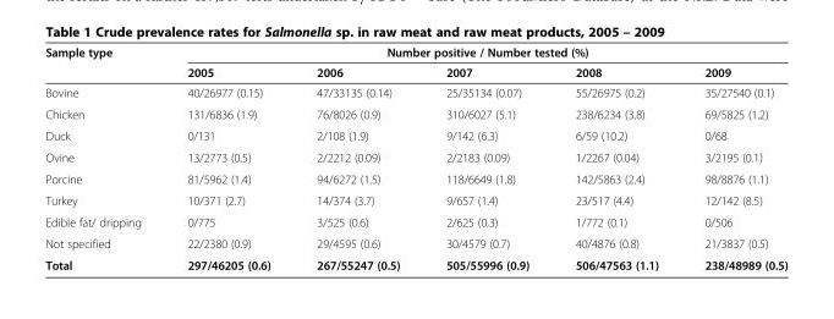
<table><thead><tr><td rowspan="2">Sample type</td><td colspan="4">Number positive / Number tested (%)</td><td rowspan="2">2009</td></tr><tr><td>2005</td><td>2006</td><td>2007</td><td>2008</td></tr></thead><tbody><tr><td>Bovine</td><td>40/26977 (0.15)</td><td>47/33135 (0.14)</td><td>25/35134 (0.07)</td><td>55/26975 (0.2)</td><td>35/27540 (0.1)</td></tr><tr><td>Chicken</td><td>131/6836 (1.9)</td><td>76/8026 (0.9)</td><td>310/6027 (5.1)</td><td>238/6234 (3.8)</td><td>69/5825 (1.2)</td></tr><tr><td>Duck</td><td>0/131</td><td>2/108 (1.9)</td><td>9/142 (6.3)</td><td>6/59 (10.2)</td><td>0/68</td></tr><tr><td>Ovine</td><td>13/2773 (0.5)</td><td>2/2212 (0.09)</td><td>2/2183 (0.09)</td><td>1/2267 (0.04)</td><td>3/2195 (0.1)</td></tr><tr><td>Porcine</td><td>81/5962 (1.4)</td><td>94/6272 (1.5)</td><td>118/6649 (1.8)</td><td>142/5863 (2.4)</td><td>98/8876 (1.1)</td></tr><tr><td>Turkey</td><td>10/371 (2.7)</td><td>14/374 (3.7)</td><td>9/657 (1.4)</td><td>23/517 (4.4)</td><td>12/142 (8.5)</td></tr><tr><td>Edible fat/ dripping</td><td>0/775</td><td>3/525 (0.6)</td><td>2/625 (0.3)</td><td>1/772 (0.1)</td><td>0/506</td></tr><tr><td>Not specified</td><td>22/2380 (0.9)</td><td>29/4595 (0.6)</td><td>30/4579 (0.7)</td><td>40/4876 (0.8)</td><td>21/3837 (0.5)</td></tr><tr><td>Total</td><td>297/46205 (0.6)</td><td>267/55247 (0.5)</td><td>505/55996 (0.9)</td><td>506/47563 (1.1)</td><td>238/48989 (0.5)</td></tr></tbody></table>